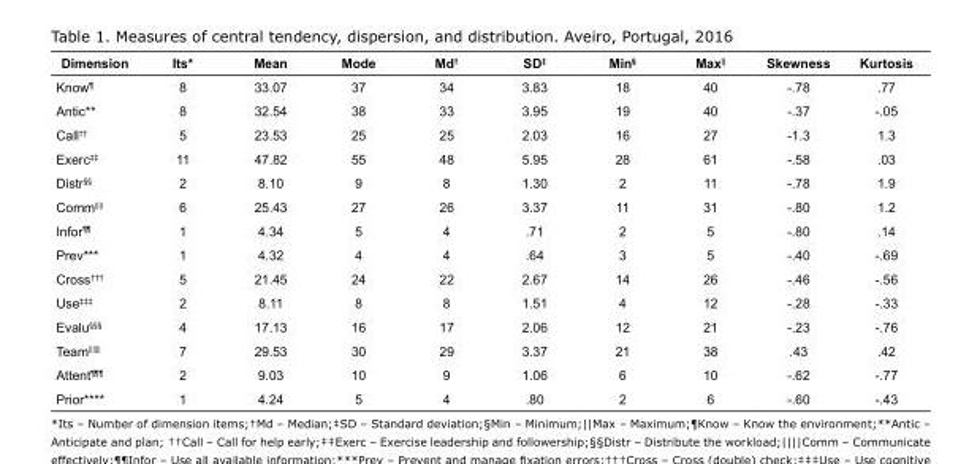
<table><tbody><tr><td>Dimension</td><td>Its*</td><td>Mean</td><td>Mode</td><td>Md<sup>†</sup></td><td>SD<sup>‡</sup></td><td>Min<sup>§</sup></td><td>Max<sup>||</sup></td><td>Skewness</td><td>Kurtosis</td></tr><tr><td>Know<sup>¶</sup></td><td>8</td><td>33.07</td><td>37</td><td>34</td><td>3.83</td><td>18</td><td>40</td><td>-.78</td><td>.77</td></tr><tr><td>Antic**</td><td>8</td><td>32.54</td><td>38</td><td>33</td><td>3.95</td><td>19</td><td>40</td><td>-.37</td><td>-.05</td></tr><tr><td>Call<sup>††</sup></td><td>5</td><td>23.53</td><td>25</td><td>25</td><td>2.03</td><td>16</td><td>27</td><td>-1.3</td><td>1.3</td></tr><tr><td>Exerc<sup>‡‡</sup></td><td>11</td><td>47.82</td><td>55</td><td>48</td><td>5.95</td><td>28</td><td>61</td><td>-.58</td><td>.03</td></tr><tr><td>Distr<sup>§§</sup></td><td>2</td><td>8.10</td><td>9</td><td>8</td><td>1.30</td><td>2</td><td>11</td><td>-.78</td><td>1.9</td></tr><tr><td>Comm<sup>||||</sup></td><td>6</td><td>25.43</td><td>27</td><td>26</td><td>3.37</td><td>11</td><td>31</td><td>-.80</td><td>1.2</td></tr><tr><td>Infor<sup>¶¶</sup></td><td>1</td><td>4.34</td><td>5</td><td>4</td><td>.71</td><td>2</td><td>5</td><td>-.80</td><td>.14</td></tr><tr><td>Prev***</td><td>1</td><td>4.32</td><td>4</td><td>4</td><td>.64</td><td>3</td><td>5</td><td>-.40</td><td>-.69</td></tr><tr><td>Cross<sup>†††</sup></td><td>5</td><td>21.45</td><td>24</td><td>22</td><td>2.67</td><td>14</td><td>26</td><td>-.46</td><td>-.56</td></tr><tr><td>Use<sup>‡‡‡</sup></td><td>2</td><td>8.11</td><td>8</td><td>8</td><td>1.51</td><td>4</td><td>12</td><td>-.28</td><td>-.33</td></tr><tr><td>Evalu<sup>§§§</sup></td><td>4</td><td>17.13</td><td>16</td><td>17</td><td>2.06</td><td>12</td><td>21</td><td>-.23</td><td>-.76</td></tr><tr><td>Team<sup>||||||</sup></td><td>7</td><td>29.53</td><td>30</td><td>29</td><td>3.37</td><td>21</td><td>38</td><td>.43</td><td>.42</td></tr><tr><td>Attent<sup>¶¶¶</sup></td><td>2</td><td>9.03</td><td>10</td><td>9</td><td>1.06</td><td>6</td><td>10</td><td>-.62</td><td>-.77</td></tr><tr><td>Prior****</td><td>1</td><td>4.24</td><td>5</td><td>4</td><td>.80</td><td>2</td><td>6</td><td>-.60</td><td>-.43</td></tr></tbody></table>